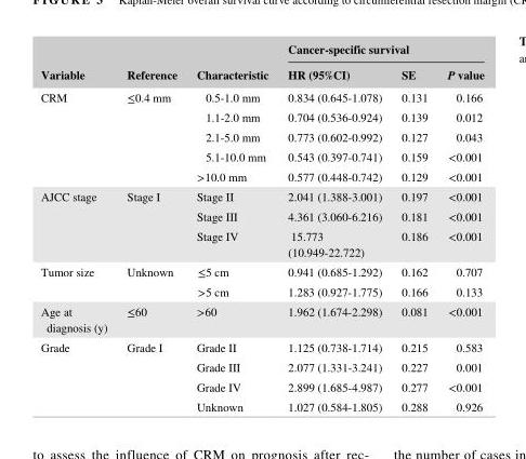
<table><thead><tr><td rowspan="2">Variable</td><td rowspan="2">Reference</td><td rowspan="2">Characteristic</td><td colspan="3">Cancer- specific survival</td></tr><tr><td>HR (95%CI)</td><td>SE</td><td>P value</td></tr></thead><tbody><tr><td rowspan="5">CRM</td><td rowspan="5">≤0.4 mm</td><td>0.5- 1.0 mm</td><td>0.834 (0.645- 1.078)</td><td>0.131</td><td>0.166</td></tr><tr><td>1.1- 2.0 mm</td><td>0.704 (0.536- 0.924)</td><td>0.139</td><td>0.012</td></tr><tr><td>2.1- 5.0 mm</td><td>0.773 (0.602- 0.992)</td><td>0.127</td><td>0.043</td></tr><tr><td>5.1- 10.0 mm</td><td>0.543 (0.397- 0.741)</td><td>0.159</td><td>&lt;0.001</td></tr><tr><td>&gt;10.0 mm</td><td>0.577 (0.448- 0.742)</td><td>0.129</td><td>&lt;0.001</td></tr><tr><td rowspan="3">AJCC stage</td><td rowspan="3">Stage I</td><td>Stage II</td><td>2.041 (1.388- 3.001)</td><td>0.197</td><td>&lt;0.001</td></tr><tr><td>Stage III</td><td>4.361 (3.060- 6.216)</td><td>0.181</td><td>&lt;0.001</td></tr><tr><td>Stage IV</td><td>15.773 (10.949- 22.722)</td><td>0.186</td><td>&lt;0.001</td></tr><tr><td rowspan="2">Tumor size</td><td rowspan="2">Unknown</td><td>≤5 cm</td><td>0.941 (0.685- 1.292)</td><td>0.162</td><td>0.707</td></tr><tr><td>&gt;5 cm</td><td>1.283 (0.927- 1.775)</td><td>0.166</td><td>0.133</td></tr><tr><td>Age at diagnosis (y)</td><td>≤60</td><td>&gt;60</td><td>1.962 (1.674- 2.298)</td><td>0.081</td><td>&lt;0.001</td></tr><tr><td rowspan="4">Grade</td><td rowspan="4">Grade I</td><td>Grade II</td><td>1.125 (0.738- 1.714)</td><td>0.215</td><td>0.583</td></tr><tr><td>Grade III</td><td>2.077 (1.331- 3.241)</td><td>0.227</td><td>0.001</td></tr><tr><td>Grade IV</td><td>2.899 (1.685- 4.987)</td><td>0.277</td><td>&lt;0.001</td></tr><tr><td>Unknown</td><td>1.027 (0.584- 1.805)</td><td>0.288</td><td>0.926</td></tr></tbody></table>